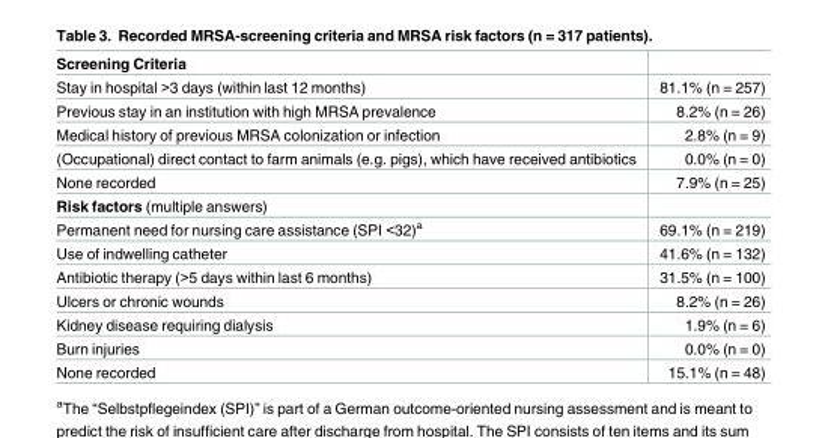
<table><tbody><tr><td colspan="2">Screening Criteria</td></tr><tr><td>Stay in hospital &gt;3 days (within last 12 months)</td><td>81.1% (n = 257)</td></tr><tr><td>Previous stay in an institution with high MRSA prevalence</td><td>8.2% (n = 26)</td></tr><tr><td>Medical history of previous MRSA colonization or infection</td><td>2.8% (n = 9)</td></tr><tr><td>(Occupational) direct contact to farm animals (e.g. pigs), which have received antibiotics</td><td>0.0% (n = 0)</td></tr><tr><td>None recorded</td><td>7.9% (n = 25)</td></tr><tr><td colspan="2">Risk factors (multiple answers)</td></tr><tr><td>Permanent need for nursing care assistance (SPI &lt;32)<sup>a</sup></td><td>69.1% (n = 219)</td></tr><tr><td>Use of indwelling catheter</td><td>41.6% (n = 132)</td></tr><tr><td>Antibiotic therapy (&gt;5 days within last 6 months)</td><td>31.5% (n = 100)</td></tr><tr><td>Ulcers or chronic wounds</td><td>8.2% (n = 26)</td></tr><tr><td>Kidney disease requiring dialysis</td><td>1.9% (n = 6)</td></tr><tr><td>Burn injuries</td><td>0.0% (n = 0)</td></tr><tr><td>None recorded</td><td>15.1% (n = 48)</td></tr></tbody></table>